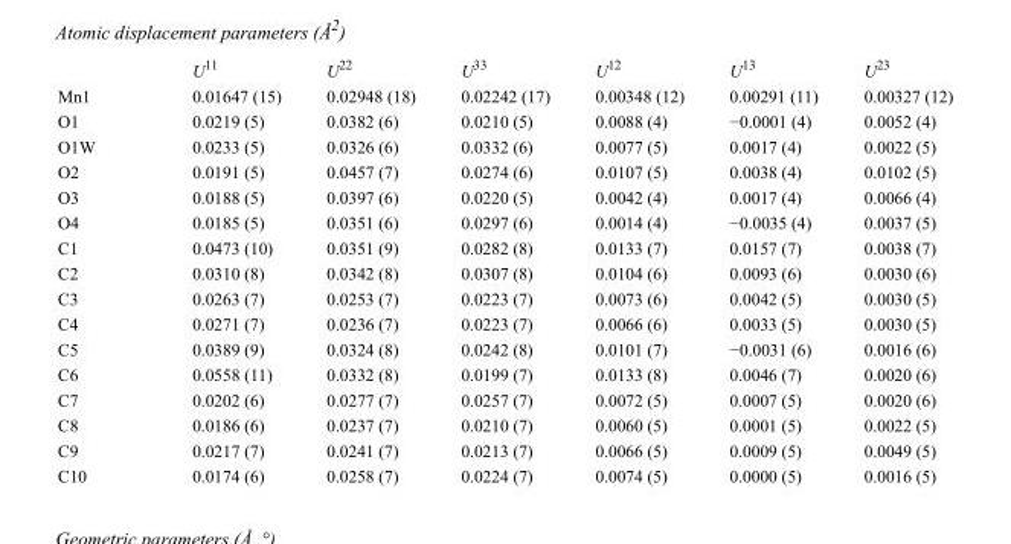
<table><thead><tr><td></td><td>U<sup>11</sup></td><td>U<sup>22</sup></td><td>U<sup>33</sup></td><td>U<sup>12</sup></td><td>U<sup>13</sup></td><td>U<sup>23</sup></td></tr></thead><tbody><tr><td>Mn1</td><td>0.01647 (15)</td><td>0.02948 (18)</td><td>0.02242 (17)</td><td>0.00348 (12)</td><td>0.00291 (11)</td><td>0.00327 (12)</td></tr><tr><td>O1</td><td>0.0219 (5)</td><td>0.0382 (6)</td><td>0.0210 (5)</td><td>0.0088 (4)</td><td>−0.0001 (4)</td><td>0.0052 (4)</td></tr><tr><td>O1W</td><td>0.0233 (5)</td><td>0.0326 (6)</td><td>0.0332 (6)</td><td>0.0077 (5)</td><td>0.0017 (4)</td><td>0.0022 (5)</td></tr><tr><td>O2</td><td>0.0191 (5)</td><td>0.0457 (7)</td><td>0.0274 (6)</td><td>0.0107 (5)</td><td>0.0038 (4)</td><td>0.0102 (5)</td></tr><tr><td>O3</td><td>0.0188 (5)</td><td>0.0397 (6)</td><td>0.0220 (5)</td><td>0.0042 (4)</td><td>0.0017 (4)</td><td>0.0066 (4)</td></tr><tr><td>O4</td><td>0.0185 (5)</td><td>0.0351 (6)</td><td>0.0297 (6)</td><td>0.0014 (4)</td><td>−0.0035 (4)</td><td>0.0037 (5)</td></tr><tr><td>C1</td><td>0.0473 (10)</td><td>0.0351 (9)</td><td>0.0282 (8)</td><td>0.0133 (7)</td><td>0.0157 (7)</td><td>0.0038 (7)</td></tr><tr><td>C2</td><td>0.0310 (8)</td><td>0.0342 (8)</td><td>0.0307 (8)</td><td>0.0104 (6)</td><td>0.0093 (6)</td><td>0.0030 (6)</td></tr><tr><td>C3</td><td>0.0263 (7)</td><td>0.0253 (7)</td><td>0.0223 (7)</td><td>0.0073 (6)</td><td>0.0042 (5)</td><td>0.0030 (5)</td></tr><tr><td>C4</td><td>0.0271 (7)</td><td>0.0236 (7)</td><td>0.0223 (7)</td><td>0.0066 (6)</td><td>0.0033 (5)</td><td>0.0030 (5)</td></tr><tr><td>C5</td><td>0.0389 (9)</td><td>0.0324 (8)</td><td>0.0242 (8)</td><td>0.0101 (7)</td><td>−0.0031 (6)</td><td>0.0016 (6)</td></tr><tr><td>C6</td><td>0.0558 (11)</td><td>0.0332 (8)</td><td>0.0199 (7)</td><td>0.0133 (8)</td><td>0.0046 (7)</td><td>0.0020 (6)</td></tr><tr><td>C7</td><td>0.0202 (6)</td><td>0.0277 (7)</td><td>0.0257 (7)</td><td>0.0072 (5)</td><td>0.0007 (5)</td><td>0.0020 (6)</td></tr><tr><td>C8</td><td>0.0186 (6)</td><td>0.0237 (7)</td><td>0.0210 (7)</td><td>0.0060 (5)</td><td>0.0001 (5)</td><td>0.0022 (5)</td></tr><tr><td>C9</td><td>0.0217 (7)</td><td>0.0241 (7)</td><td>0.0213 (7)</td><td>0.0066 (5)</td><td>0.0009 (5)</td><td>0.0049 (5)</td></tr><tr><td>C10</td><td>0.0174 (6)</td><td>0.0258 (7)</td><td>0.0224 (7)</td><td>0.0074 (5)</td><td>0.0000 (5)</td><td>0.0016 (5)</td></tr></tbody></table>